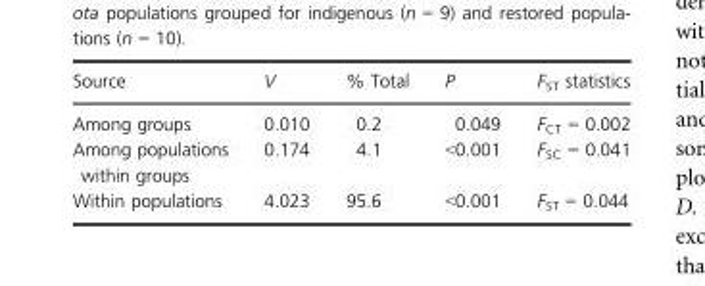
<table><thead><tr><td>Source</td><td>V</td><td>% Total</td><td>P</td><td>F<sub>ST</sub> statistics</td></tr></thead><tbody><tr><td>Among groups</td><td>0.010</td><td>0.2</td><td>0.049</td><td>F<sub>CT</sub> = 0.002</td></tr><tr><td>Among populations within groups</td><td>0.174</td><td>4.1</td><td>&lt;0.001</td><td>F<sub>SC</sub> = 0.041</td></tr><tr><td>Within populations</td><td>4.023</td><td>95.6</td><td>&lt;0.001</td><td>F<sub>ST</sub> = 0.044</td></tr></tbody></table>